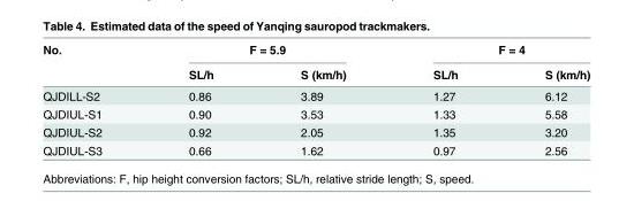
<table><thead><tr><td rowspan="2">No.</td><td colspan="2">F = 5.9</td><td colspan="2">F = 4</td></tr><tr><td>SL/h</td><td>S (km/h)</td><td>SL/h</td><td>S (km/h)</td></tr></thead><tbody><tr><td>QJDILL-S2</td><td>0.86</td><td>3.89</td><td>1.27</td><td>6.12</td></tr><tr><td>QJDIUL-S1</td><td>0.90</td><td>3.53</td><td>1.33</td><td>5.58</td></tr><tr><td>QJDIUL-S2</td><td>0.92</td><td>2.05</td><td>1.35</td><td>3.20</td></tr><tr><td>QJDIUL-S3</td><td>0.66</td><td>1.62</td><td>0.97</td><td>2.56</td></tr></tbody></table>